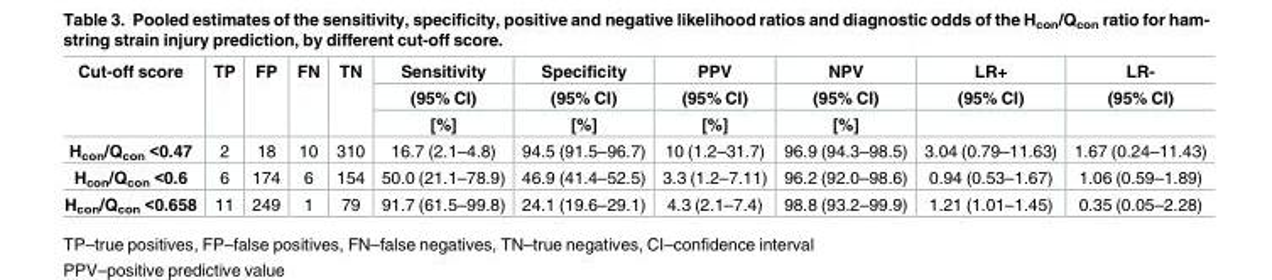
<table><thead><tr><td rowspan="3">Cut-off score</td><td rowspan="3">TP</td><td rowspan="3">FP</td><td rowspan="3">FN</td><td rowspan="3">TN</td><td rowspan="3">Sensitivity (95% CI) [%]</td><td rowspan="3">Specificity (95% CI) [%]</td><td rowspan="3">PPV (95% CI) [%]</td><td rowspan="3">NPV (95% CI) [%]</td><td rowspan="3">LR+ (95% CI)</td><td rowspan="3">LR- (95% CI)</td></tr><tr></tr><tr></tr></thead><tbody><tr><td>H<sub>con</sub>/Q<sub>con</sub> &lt;0.47</td><td>2</td><td>18</td><td>10</td><td>310</td><td>16.7 (2.1–4.8)</td><td>94.5 (91.5–96.7)</td><td>10 (1.2–31.7)</td><td>96.9 (94.3–98.5)</td><td>3.04 (0.79–11.63)</td><td>1.67 (0.24–11.43)</td></tr><tr><td>H<sub>con</sub>/Q<sub>con</sub> &lt;0.6</td><td>6</td><td>174</td><td>6</td><td>154</td><td>50.0 (21.1–78.9)</td><td>46.9 (41.4–52.5)</td><td>3.3 (1.2–7.11)</td><td>96.2 (92.0–98.6)</td><td>0.94 (0.53–1.67)</td><td>1.06 (0.59–1.89)</td></tr><tr><td>H<sub>con</sub>/Q<sub>con</sub> &lt;0.658</td><td>11</td><td>249</td><td>1</td><td>79</td><td>91.7 (61.5–99.8)</td><td>24.1 (19.6–29.1)</td><td>4.3 (2.1–7.4)</td><td>98.8 (93.2–99.9)</td><td>1.21 (1.01–1.45)</td><td>0.35 (0.05–2.28)</td></tr></tbody></table>